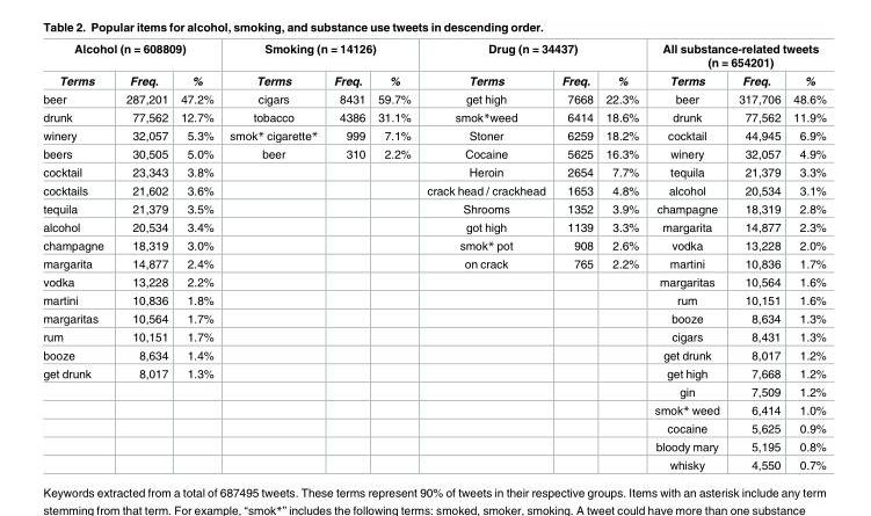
<table><thead><tr><td colspan="3">Alcohol (n = 608809)</td><td colspan="3">Smoking (n = 14126)</td><td colspan="3">Drug (n = 34437)</td><td colspan="3">All substance-related tweets (n = 654201)</td></tr><tr><td>Terms</td><td>Freq.</td><td>%</td><td>Terms</td><td>Freq.</td><td>%</td><td>Terms</td><td>Freq.</td><td>%</td><td>Terms</td><td>Freq.</td><td>%</td></tr></thead><tbody><tr><td>beer</td><td>287,201</td><td>47.2%</td><td>cigars</td><td>8431</td><td>59.7%</td><td>get high</td><td>7668</td><td>22.3%</td><td>beer</td><td>317,706</td><td>48.6%</td></tr><tr><td>drunk</td><td>77,562</td><td>12.7%</td><td>tobacco</td><td>4386</td><td>31.1%</td><td>smok*weed</td><td>6414</td><td>18.6%</td><td>drunk</td><td>77,562</td><td>11.9%</td></tr><tr><td>winery</td><td>32,057</td><td>5.3%</td><td>smok* cigarette*</td><td>999</td><td>7.1%</td><td>Stoner</td><td>6259</td><td>18.2%</td><td>cocktail</td><td>44,945</td><td>6.9%</td></tr><tr><td>beers</td><td>30,505</td><td>5.0%</td><td>beer</td><td>310</td><td>2.2%</td><td>Cocaine</td><td>5625</td><td>16.3%</td><td>winery</td><td>32,057</td><td>4.9%</td></tr><tr><td>cocktail</td><td>23,343</td><td>3.8%</td><td></td><td></td><td></td><td>Heroin</td><td>2654</td><td>7.7%</td><td>tequila</td><td>21,379</td><td>3.3%</td></tr><tr><td>cocktails</td><td>21,602</td><td>3.6%</td><td></td><td></td><td></td><td>crack head / crackhead</td><td>1653</td><td>4.8%</td><td>alcohol</td><td>20,534</td><td>3.1%</td></tr><tr><td>tequila</td><td>21,379</td><td>3.5%</td><td></td><td></td><td></td><td>Shrooms</td><td>1352</td><td>3.9%</td><td>champagne</td><td>18,319</td><td>2.8%</td></tr><tr><td>alcohol</td><td>20,534</td><td>3.4%</td><td></td><td></td><td></td><td>got high</td><td>1139</td><td>3.3%</td><td>margarita</td><td>14,877</td><td>2.3%</td></tr><tr><td>champagne</td><td>18,319</td><td>3.0%</td><td></td><td></td><td></td><td>smok* pot</td><td>908</td><td>2.6%</td><td>vodka</td><td>13,228</td><td>2.0%</td></tr><tr><td>margarita</td><td>14,877</td><td>2.4%</td><td></td><td></td><td></td><td>on crack</td><td>765</td><td>2.2%</td><td>martini</td><td>10,836</td><td>1.7%</td></tr><tr><td>vodka</td><td>13,228</td><td>2.2%</td><td></td><td></td><td></td><td></td><td></td><td></td><td>margaritas</td><td>10,564</td><td>1.6%</td></tr><tr><td>martini</td><td>10,836</td><td>1.8%</td><td></td><td></td><td></td><td></td><td></td><td></td><td>rum</td><td>10,151</td><td>1.6%</td></tr><tr><td>margaritas</td><td>10,564</td><td>1.7%</td><td></td><td></td><td></td><td></td><td></td><td></td><td>booze</td><td>8,634</td><td>1.3%</td></tr><tr><td>rum</td><td>10,151</td><td>1.7%</td><td></td><td></td><td></td><td></td><td></td><td></td><td>cigars</td><td>8,431</td><td>1.3%</td></tr><tr><td>booze</td><td>8,634</td><td>1.4%</td><td></td><td></td><td></td><td></td><td></td><td></td><td>get drunk</td><td>8,017</td><td>1.2%</td></tr><tr><td rowspan="6">get drunk</td><td>8,017</td><td>1.3%</td><td></td><td></td><td></td><td></td><td></td><td></td><td>get high</td><td>7,668</td><td>1.2%</td></tr><tr><td></td><td></td><td></td><td></td><td></td><td></td><td></td><td></td><td>gin</td><td>7,509</td><td>1.2%</td></tr><tr><td></td><td></td><td></td><td></td><td></td><td></td><td></td><td></td><td>smok* weed</td><td>6,414</td><td>1.0%</td></tr><tr><td></td><td></td><td></td><td></td><td></td><td></td><td></td><td></td><td>cocaine</td><td>5,625</td><td>0.9%</td></tr><tr><td></td><td></td><td></td><td></td><td></td><td></td><td></td><td></td><td>bloody mary</td><td>5,195</td><td>0.8%</td></tr><tr><td></td><td></td><td></td><td></td><td></td><td></td><td></td><td></td><td>whisky</td><td>4,550</td><td>0.7%</td></tr></tbody></table>